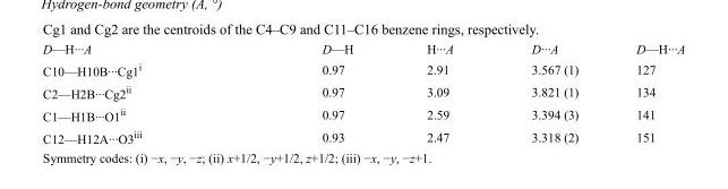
<table><tbody><tr><td>D—H···A</td><td>D—H</td><td>H···A</td><td>D···A</td><td>D—H···A</td></tr><tr><td>C10—H10B···Cg1<sup>i</sup></td><td>0.97</td><td>2.91</td><td>3.567 (1)</td><td>127</td></tr><tr><td>C2—H2B···Cg2<sup>ii</sup></td><td>0.97</td><td>3.09</td><td>3.821 (1)</td><td>134</td></tr><tr><td>C1—H1B···O1<sup>ii</sup></td><td>0.97</td><td>2.59</td><td>3.394 (3)</td><td>141</td></tr><tr><td>C12—H12A···O3<sup>iii</sup></td><td>0.93</td><td>2.47</td><td>3.318 (2)</td><td>151</td></tr></tbody></table>